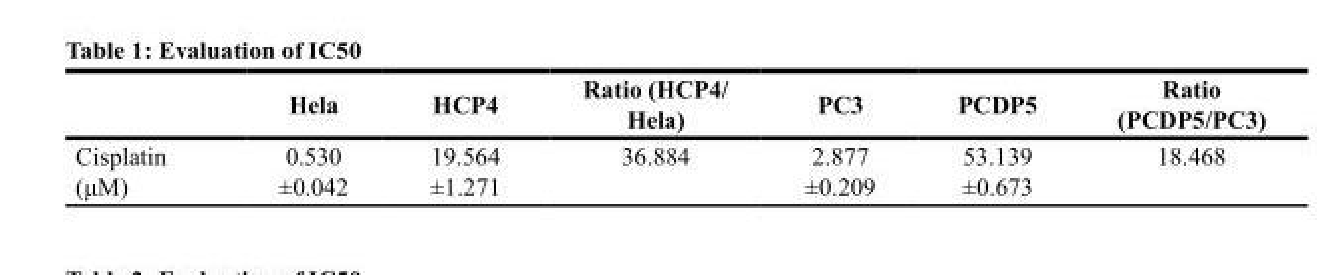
<table><thead><tr><td></td><td>Hela</td><td>HCP4</td><td>Ratio (HCP4/ Hela)</td><td>PC3</td><td>PCDP5</td><td>Ratio (PCDP5/PC3)</td></tr></thead><tbody><tr><td>Cisplatin (μM)</td><td>0.530 ±0.042</td><td>19.564 ±1.271</td><td>36.884</td><td>2.877 ±0.209</td><td>53.139 ±0.673</td><td>18.468</td></tr></tbody></table>